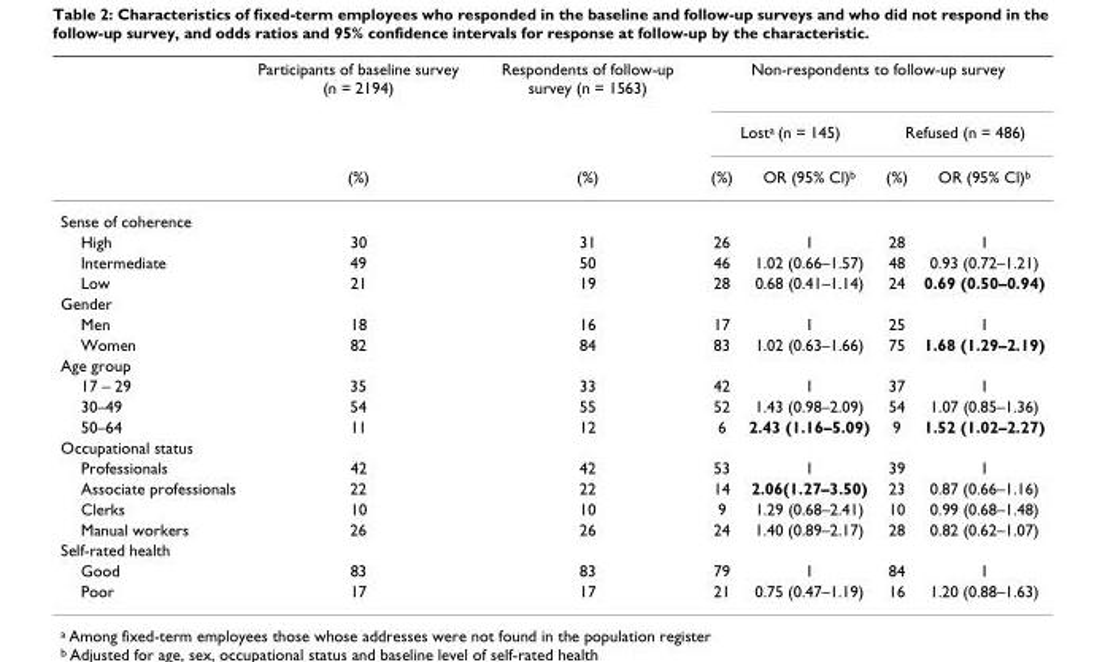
<table><thead><tr><td rowspan="3"></td><td rowspan="3">Participants of baseline survey (n = 2194) (%)</td><td rowspan="3">Respondents of follow-up survey (n = 1563) (%)</td><td colspan="4">Non-respondents to follow-up survey</td></tr><tr><td colspan="2">Lost<sup>a</sup> (n = 145)</td><td colspan="2">Refused (n = 486)</td></tr><tr><td>(%)</td><td>OR (95% Cl)<sup>b</sup></td><td>(%)</td><td>OR (95% Cl)<sup>b</sup></td></tr></thead><tbody><tr><td colspan="7">Sense of coherence</td></tr><tr><td>High</td><td>30</td><td>31</td><td>26</td><td>1</td><td>28</td><td>1</td></tr><tr><td>Intermediate</td><td>49</td><td>50</td><td>46</td><td>1.02 (0.66–1.57)</td><td>48</td><td>0.93 (0.72–1.21)</td></tr><tr><td>Low</td><td>21</td><td>19</td><td>28</td><td>0.68 (0.41–1.14)</td><td>24</td><td>0.69 (0.50–0.94)</td></tr><tr><td colspan="7">Gender</td></tr><tr><td>Men</td><td>18</td><td>16</td><td>17</td><td>1</td><td>25</td><td>1</td></tr><tr><td>Women</td><td>82</td><td>84</td><td>83</td><td>1.02 (0.63–1.66)</td><td>75</td><td>1.68 (1.29–2.19)</td></tr><tr><td colspan="7">Age group</td></tr><tr><td>17 – 29</td><td>35</td><td>33</td><td>42</td><td>1</td><td>37</td><td>1</td></tr><tr><td>30–49</td><td>54</td><td>55</td><td>52</td><td>1.43 (0.98–2.09)</td><td>54</td><td>1.07 (0.85–1.36)</td></tr><tr><td>50–64</td><td>11</td><td>12</td><td>6</td><td>2.43 (1.16–5.09)</td><td>9</td><td>1.52 (1.02–2.27)</td></tr><tr><td colspan="7">Occupational status</td></tr><tr><td>Professionals</td><td>42</td><td>42</td><td>53</td><td>1</td><td>39</td><td>1</td></tr><tr><td>Associate professionals</td><td>22</td><td>22</td><td>14</td><td>2.06(1.27–3.50)</td><td>23</td><td>0.87 (0.66–1.16)</td></tr><tr><td>Clerks</td><td>10</td><td>10</td><td>9</td><td>1.29 (0.68–2.41)</td><td>10</td><td>0.99 (0.68–1.48)</td></tr><tr><td>Manual workers</td><td>26</td><td>26</td><td>24</td><td>1.40 (0.89–2.17)</td><td>28</td><td>0.82 (0.62–1.07)</td></tr><tr><td colspan="7">Self-rated health</td></tr><tr><td>Good</td><td>83</td><td>83</td><td>79</td><td>1</td><td>84</td><td>1</td></tr><tr><td>Poor</td><td>17</td><td>17</td><td>21</td><td>0.75 (0.47–1.19)</td><td>16</td><td>1.20 (0.88–1.63)</td></tr></tbody></table>